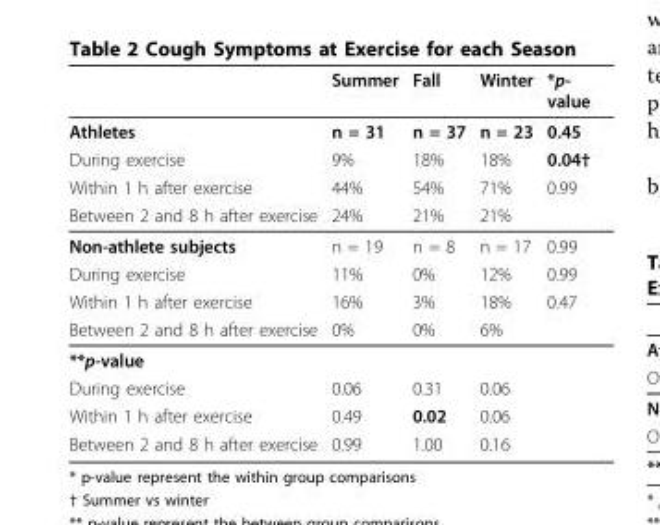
<table><thead><tr><td></td><td>Summer</td><td>Fall</td><td>Winter</td><td>*p- value</td></tr></thead><tbody><tr><td>Athletes</td><td>n = 31</td><td>n = 37</td><td>n = 23</td><td>0.45</td></tr><tr><td>During exercise</td><td>9%</td><td>18%</td><td>18%</td><td>0.04†</td></tr><tr><td>Within 1 h after exercise</td><td>44%</td><td>54%</td><td>71%</td><td>0.99</td></tr><tr><td>Between 2 and 8 h after exercise</td><td>24%</td><td>21%</td><td>21%</td><td></td></tr><tr><td>Non-athlete subjects</td><td>n = 19</td><td>n = 8</td><td>n = 17</td><td>0.99</td></tr><tr><td>During exercise</td><td>11%</td><td>0%</td><td>12%</td><td>0.99</td></tr><tr><td>Within 1 h after exercise</td><td>16%</td><td>3%</td><td>18%</td><td>0.47</td></tr><tr><td>Between 2 and 8 h after exercise</td><td>0%</td><td>0%</td><td>6%</td><td></td></tr><tr><td colspan="5">**p-value</td></tr><tr><td>During exercise</td><td>0.06</td><td>0.31</td><td>0.06</td><td></td></tr><tr><td>Within 1 h after exercise</td><td>0.49</td><td>0.02</td><td>0.06</td><td></td></tr><tr><td>Between 2 and 8 h after exercise</td><td>0.99</td><td>1.00</td><td>0.16</td><td></td></tr></tbody></table>